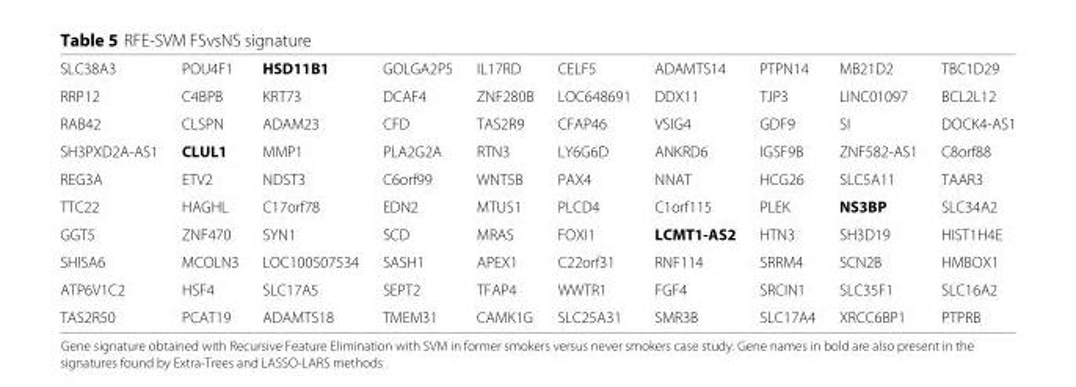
<table><tbody><tr><td>SLC38A3</td><td>POU4F1</td><td>HSD11B1</td><td>GOLGA2P5</td><td>IL17RD</td><td>CELF5</td><td>ADAMTS14</td><td>PTPN14</td><td>MB21D2</td><td>TBC1D29</td></tr><tr><td>RRP12</td><td>C4BPB</td><td>KRT73</td><td>DCAF4</td><td>ZNF280B</td><td>LOC648691</td><td>DDX11</td><td>TJP3</td><td>LINC01097</td><td>BCL2L12</td></tr><tr><td>RAB42</td><td>CLSPN</td><td>ADAM23</td><td>CFD</td><td>TAS2R9</td><td>CFAP46</td><td>VSIG4</td><td>GDF9</td><td>SI</td><td>DOCK4-AS1</td></tr><tr><td>SH3PXD2A-AS1</td><td>CLUL1</td><td>MMP1</td><td>PLA2G2A</td><td>RTN3</td><td>LY6G6D</td><td>ANKRD6</td><td>IGSF9B</td><td>ZNF582-AS1</td><td>C8orf88</td></tr><tr><td>REG3A</td><td>ETV2</td><td>NDST3</td><td>C6orf99</td><td>WNT5B</td><td>PAX4</td><td>NNAT</td><td>HCG26</td><td>SLC5A11</td><td>TAAR3</td></tr><tr><td>TTC22</td><td>HAGHL</td><td>C17orf78</td><td>EDN2</td><td>MTUS1</td><td>PLCD4</td><td>C1orf115</td><td>PLEK</td><td>NS3BP</td><td>SLC34A2</td></tr><tr><td>GGT5</td><td>ZNF470</td><td>SYN1</td><td>SCD</td><td>MRAS</td><td>FOXI1</td><td>LCMT1-AS2</td><td>HTN3</td><td>SH3D19</td><td>HIST1H4E</td></tr><tr><td>SHISA6</td><td>MCOLN3</td><td>LOC100507534</td><td>SASH1</td><td>APEX1</td><td>C22orf31</td><td>RNF114</td><td>SRRM4</td><td>SCN2B</td><td>HMBOX1</td></tr><tr><td>ATP6V1C2</td><td>HSF4</td><td>SLC17A5</td><td>SEPT2</td><td>TFAP4</td><td>WWTR1</td><td>FGF4</td><td>SRCIN1</td><td>SLC35F1</td><td>SLC16A2</td></tr><tr><td>TAS2R50</td><td>PCAT19</td><td>ADAMTS18</td><td>TMEM31</td><td>CAMK1G</td><td>SLC25A31</td><td>SMR3B</td><td>SLC17A4</td><td>XRCC6BP1</td><td>PTPRB</td></tr></tbody></table>